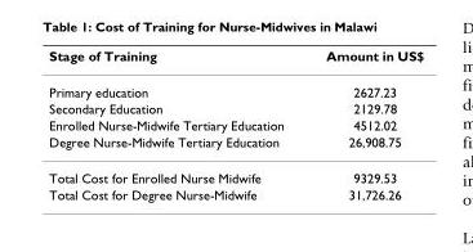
<table><thead><tr><td>Stage of Training</td><td>Amount in US$</td></tr></thead><tbody><tr><td>Primary education</td><td>2627.23</td></tr><tr><td>Secondary Education</td><td>2129.78</td></tr><tr><td>Enrolled Nurse-Midwife Tertiary Education</td><td>4512.02</td></tr><tr><td>Degree Nurse-Midwife Tertiary Education</td><td>26,908.75</td></tr><tr><td>Total Cost for Enrolled Nurse Midwife</td><td>9329.53</td></tr><tr><td>Total Cost for Degree Nurse-Midwife</td><td>31,726.26</td></tr></tbody></table>